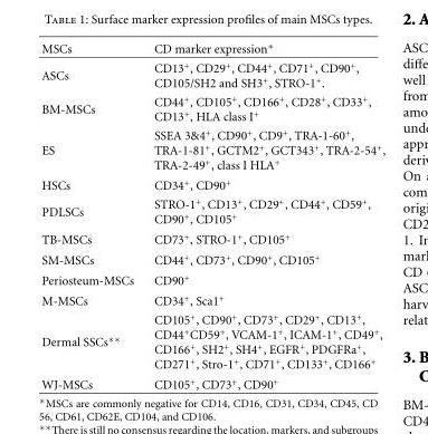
<table><thead><tr><td>MSCs</td><td>CD marker expression∗</td></tr></thead><tbody><tr><td>ASCs</td><td>CD13<sup>+</sup>, CD29<sup>+</sup>, CD44<sup>+</sup>, CD71<sup>+</sup>, CD90<sup>+</sup>, CD105/SH2 and SH3<sup>+</sup>, STRO-1<sup>+</sup>.</td></tr><tr><td>BM-MSCs</td><td>CD44<sup>+</sup>, CD105<sup>+</sup>, CD166<sup>+</sup>, CD28<sup>+</sup>, CD33<sup>+</sup>, CD13<sup>+</sup>, HLA class I<sup>+</sup></td></tr><tr><td>ES</td><td>SSEA 3&amp;4<sup>+</sup>, CD90<sup>+</sup>, CD9<sup>+</sup>, TRA-1-60<sup>+</sup>, TRA-1-81<sup>+</sup>, GCTM2<sup>+</sup>, GCT343<sup>+</sup>, TRA-2-54<sup>+</sup>, TRA-2-49<sup>+</sup>, class I HLA<sup>+</sup></td></tr><tr><td>HSCs</td><td>CD34<sup>+</sup>, CD90<sup>+</sup></td></tr><tr><td>PDLSCs</td><td>STRO-1<sup>+</sup>, CD13<sup>+</sup>, CD29<sup>+</sup>, CD44<sup>+</sup>, CD59<sup>+</sup>, CD90<sup>+</sup>, CD105<sup>+</sup></td></tr><tr><td>TB-MSCs</td><td>CD73<sup>+</sup>, STRO-1<sup>+</sup>, CD105<sup>+</sup></td></tr><tr><td>SM-MSCs</td><td>CD44<sup>+</sup>, CD73<sup>+</sup>, CD90<sup>+</sup>, CD105<sup>+</sup></td></tr><tr><td>Periosteum-MSCs</td><td>CD90<sup>+</sup></td></tr><tr><td>M-MSCs</td><td>CD34<sup>+</sup>, Sca1<sup>+</sup></td></tr><tr><td>Dermal SSCs∗∗</td><td>CD105<sup>+</sup>, CD90<sup>+</sup>, CD73<sup>+</sup>, CD29<sup>+</sup>, CD13<sup>+</sup>, CD44<sup>+</sup>CD59<sup>+</sup>, VCAM-1<sup>+</sup>, ICAM-1<sup>+</sup>, CD49<sup>+</sup>, CD166<sup>+</sup>, SH2<sup>+</sup>, SH4<sup>+</sup>, EGFR<sup>+</sup>, PDGFRa<sup>+</sup>, CD271<sup>+</sup>, Stro-1<sup>+</sup>, CD71<sup>+</sup>, CD133<sup>+</sup>, CD166<sup>+</sup></td></tr><tr><td>WJ-MSCs</td><td>CD105<sup>+</sup>, CD73<sup>+</sup>, CD90<sup>+</sup></td></tr></tbody></table>